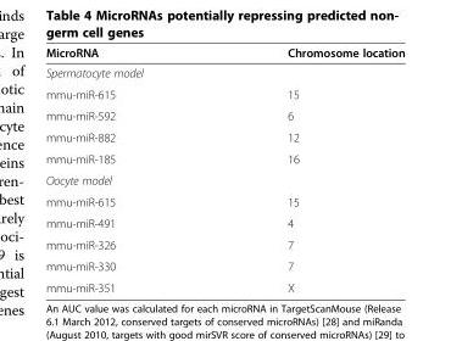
<table><thead><tr><td>MicroRNA</td><td>Chromosome location</td></tr></thead><tbody><tr><td colspan="2">Spermatocyte model</td></tr><tr><td>mmu-miR-615</td><td>15</td></tr><tr><td>mmu-miR-592</td><td>6</td></tr><tr><td>mmu-miR-882</td><td>12</td></tr><tr><td>mmu-miR-185</td><td>16</td></tr><tr><td colspan="2">Oocyte model</td></tr><tr><td>mmu-miR-615</td><td>15</td></tr><tr><td>mmu-miR-491</td><td>4</td></tr><tr><td>mmu-miR-326</td><td>7</td></tr><tr><td>mmu-miR-330</td><td>7</td></tr><tr><td>mmu-miR-351</td><td>X</td></tr></tbody></table>